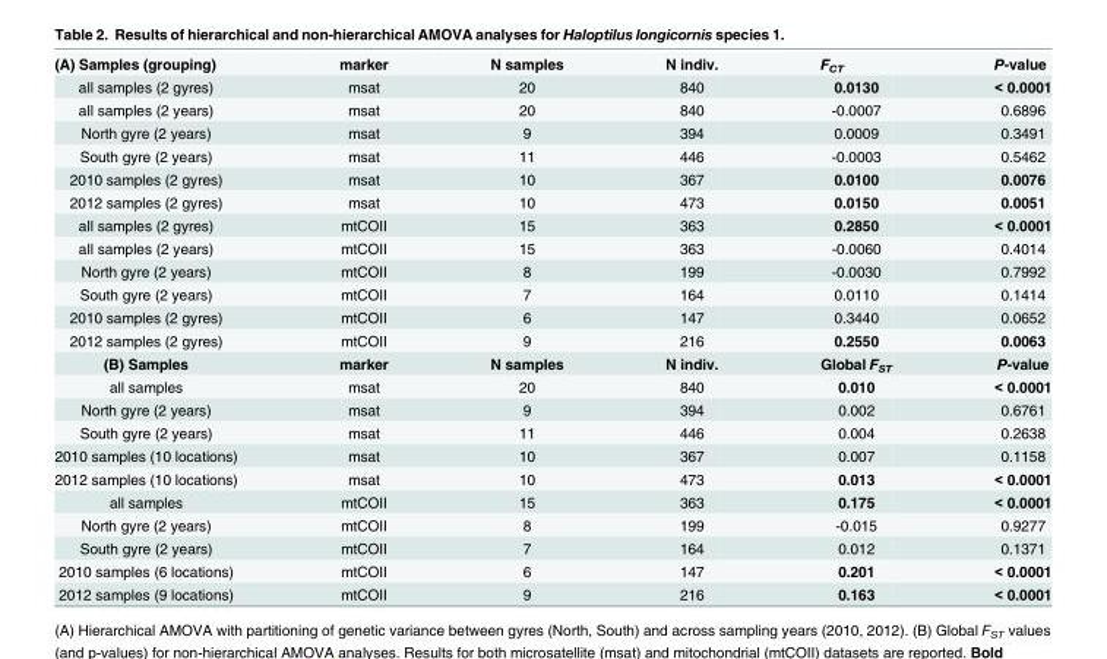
<table><tbody><tr><td>(A) Samples (grouping)</td><td>marker</td><td>N samples</td><td>N indiv.</td><td>F<sub>CT</sub></td><td>P-value</td></tr><tr><td>all samples (2 gyres)</td><td>msat</td><td>20</td><td>840</td><td>0.0130</td><td>&lt; 0.0001</td></tr><tr><td>all samples (2 years)</td><td>msat</td><td>20</td><td>840</td><td>-0.0007</td><td>0.6896</td></tr><tr><td>North gyre (2 years)</td><td>msat</td><td>9</td><td>394</td><td>0.0009</td><td>0.3491</td></tr><tr><td>South gyre (2 years)</td><td>msat</td><td>11</td><td>446</td><td>-0.0003</td><td>0.5462</td></tr><tr><td>2010 samples (2 gyres)</td><td>msat</td><td>10</td><td>367</td><td>0.0100</td><td>0.0076</td></tr><tr><td>2012 samples (2 gyres)</td><td>msat</td><td>10</td><td>473</td><td>0.0150</td><td>0.0051</td></tr><tr><td>all samples (2 gyres)</td><td>mtCOII</td><td>15</td><td>363</td><td>0.2850</td><td>&lt; 0.0001</td></tr><tr><td>all samples (2 years)</td><td>mtCOII</td><td>15</td><td>363</td><td>-0.0060</td><td>0.4014</td></tr><tr><td>North gyre (2 years)</td><td>mtCOII</td><td>8</td><td>199</td><td>-0.0030</td><td>0.7992</td></tr><tr><td>South gyre (2 years)</td><td>mtCOII</td><td>7</td><td>164</td><td>0.0110</td><td>0.1414</td></tr><tr><td>2010 samples (2 gyres)</td><td>mtCOII</td><td>6</td><td>147</td><td>0.3440</td><td>0.0652</td></tr><tr><td>2012 samples (2 gyres)</td><td>mtCOII</td><td>9</td><td>216</td><td>0.2550</td><td>0.0063</td></tr><tr><td>(B) Samples</td><td>marker</td><td>N samples</td><td>N indiv.</td><td>Global F<sub>ST</sub></td><td>P-value</td></tr><tr><td>all samples</td><td>msat</td><td>20</td><td>840</td><td>0.010</td><td>&lt; 0.0001</td></tr><tr><td>North gyre (2 years)</td><td>msat</td><td>9</td><td>394</td><td>0.002</td><td>0.6761</td></tr><tr><td>South gyre (2 years)</td><td>msat</td><td>11</td><td>446</td><td>0.004</td><td>0.2638</td></tr><tr><td>2010 samples (10 locations)</td><td>msat</td><td>10</td><td>367</td><td>0.007</td><td>0.1158</td></tr><tr><td>2012 samples (10 locations)</td><td>msat</td><td>10</td><td>473</td><td>0.013</td><td>&lt; 0.0001</td></tr><tr><td>all samples</td><td>mtCOII</td><td>15</td><td>363</td><td>0.175</td><td>&lt; 0.0001</td></tr><tr><td>North gyre (2 years)</td><td>mtCOII</td><td>8</td><td>199</td><td>-0.015</td><td>0.9277</td></tr><tr><td>South gyre (2 years)</td><td>mtCOII</td><td>7</td><td>164</td><td>0.012</td><td>0.1371</td></tr><tr><td>2010 samples (6 locations)</td><td>mtCOII</td><td>6</td><td>147</td><td>0.201</td><td>&lt; 0.0001</td></tr><tr><td>2012 samples (9 locations)</td><td>mtCOII</td><td>9</td><td>216</td><td>0.163</td><td>&lt; 0.0001</td></tr></tbody></table>